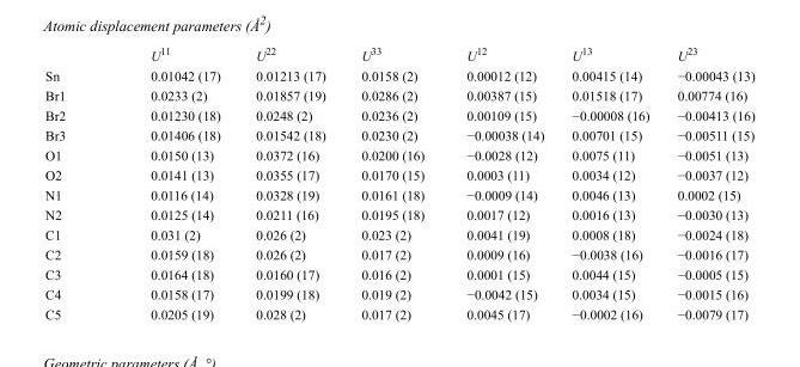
<table><thead><tr><td></td><td>U<sup>11</sup></td><td>U<sup>22</sup></td><td>U<sup>33</sup></td><td>U<sup>12</sup></td><td>U<sup>13</sup></td><td>U<sup>23</sup></td></tr></thead><tbody><tr><td>Sn</td><td>0.01042 (17)</td><td>0.01213 (17)</td><td>0.0158 (2)</td><td>0.00012 (12)</td><td>0.00415 (14)</td><td>−0.00043 (13)</td></tr><tr><td>Br1</td><td>0.0233 (2)</td><td>0.01857 (19)</td><td>0.0286 (2)</td><td>0.00387 (15)</td><td>0.01518 (17)</td><td>0.00774 (16)</td></tr><tr><td>Br2</td><td>0.01230 (18)</td><td>0.0248 (2)</td><td>0.0236 (2)</td><td>0.00109 (15)</td><td>−0.00008 (16)</td><td>−0.00413 (16)</td></tr><tr><td>Br3</td><td>0.01406 (18)</td><td>0.01542 (18)</td><td>0.0230 (2)</td><td>−0.00038 (14)</td><td>0.00701 (15)</td><td>−0.00511 (15)</td></tr><tr><td>O1</td><td>0.0150 (13)</td><td>0.0372 (16)</td><td>0.0200 (16)</td><td>−0.0028 (12)</td><td>0.0075 (11)</td><td>−0.0051 (13)</td></tr><tr><td>O2</td><td>0.0141 (13)</td><td>0.0355 (17)</td><td>0.0170 (15)</td><td>0.0003 (11)</td><td>0.0034 (12)</td><td>−0.0037 (12)</td></tr><tr><td>N1</td><td>0.0116 (14)</td><td>0.0328 (19)</td><td>0.0161 (18)</td><td>−0.0009 (14)</td><td>0.0046 (13)</td><td>0.0002 (15)</td></tr><tr><td>N2</td><td>0.0125 (14)</td><td>0.0211 (16)</td><td>0.0195 (18)</td><td>0.0017 (12)</td><td>0.0016 (13)</td><td>−0.0030 (13)</td></tr><tr><td>C1</td><td>0.031 (2)</td><td>0.026 (2)</td><td>0.023 (2)</td><td>0.0041 (19)</td><td>0.0008 (18)</td><td>−0.0024 (18)</td></tr><tr><td>C2</td><td>0.0159 (18)</td><td>0.026 (2)</td><td>0.017 (2)</td><td>0.0009 (16)</td><td>−0.0038 (16)</td><td>−0.0016 (17)</td></tr><tr><td>C3</td><td>0.0164 (18)</td><td>0.0160 (17)</td><td>0.016 (2)</td><td>0.0001 (15)</td><td>0.0044 (15)</td><td>−0.0005 (15)</td></tr><tr><td>C4</td><td>0.0158 (17)</td><td>0.0199 (18)</td><td>0.019 (2)</td><td>−0.0042 (15)</td><td>0.0034 (15)</td><td>−0.0015 (16)</td></tr><tr><td>C5</td><td>0.0205 (19)</td><td>0.028 (2)</td><td>0.017 (2)</td><td>0.0045 (17)</td><td>−0.0002 (16)</td><td>−0.0079 (17)</td></tr></tbody></table>